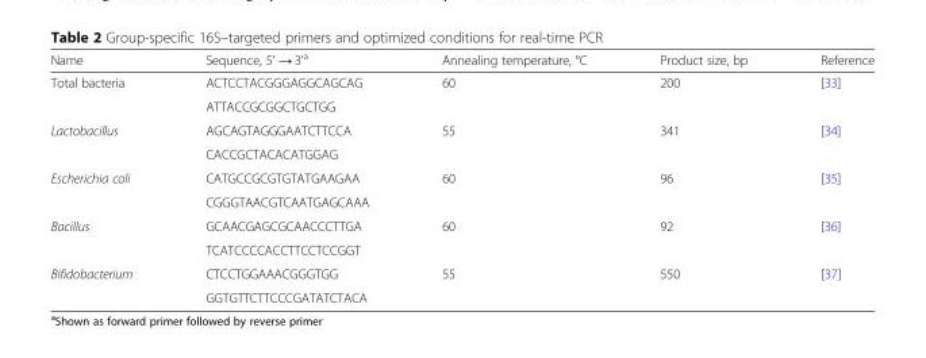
<table><thead><tr><td>Name</td><td>Sequence, 5′ → 3’<sup>a</sup></td><td>Annealing temperature, °C</td><td>Product size, bp</td><td>Reference</td></tr></thead><tbody><tr><td rowspan="2">Total bacteria</td><td>ACTCCTACGGGAGGCAGCAG</td><td rowspan="2">60</td><td rowspan="2">200</td><td rowspan="2">[33]</td></tr><tr><td>ATTACCGCGGCTGCTGG</td></tr><tr><td rowspan="2">Lactobacillus</td><td>AGCAGTAGGGAATCTTCCA</td><td rowspan="2">55</td><td rowspan="2">341</td><td rowspan="2">[34]</td></tr><tr><td>CACCGCTACACATGGAG</td></tr><tr><td rowspan="2">Escherichia coli</td><td>CATGCCGCGTGTATGAAGAA</td><td rowspan="2">60</td><td rowspan="2">96</td><td rowspan="2">[35]</td></tr><tr><td>CGGGTAACGTCAATGAGCAAA</td></tr><tr><td rowspan="2">Bacillus</td><td>GCAACGAGCGCAACCCTTGA</td><td rowspan="2">60</td><td rowspan="2">92</td><td rowspan="2">[36]</td></tr><tr><td>TCATCCCCACCTTCCTCCGGT</td></tr><tr><td rowspan="2">Bifidobacterium</td><td>CTCCTGGAAACGGGTGG</td><td rowspan="2">55</td><td rowspan="2">550</td><td rowspan="2">[37]</td></tr><tr><td>GGTGTTCTTCCCGATATCTACA</td></tr></tbody></table>